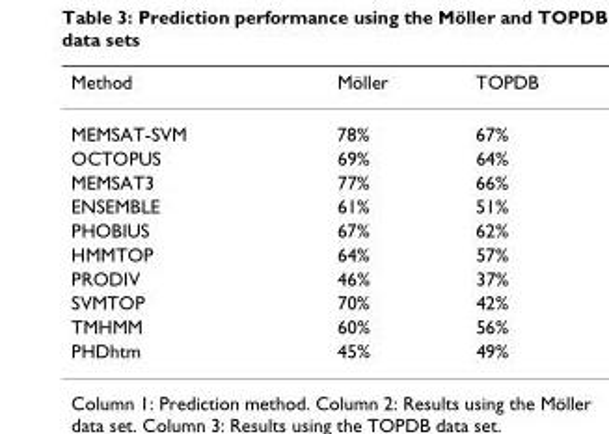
<table><thead><tr><td>Method</td><td>Möller</td><td>TOPDB</td></tr></thead><tbody><tr><td>MEMSAT-SVM</td><td>78%</td><td>67%</td></tr><tr><td>OCTOPUS</td><td>69%</td><td>64%</td></tr><tr><td>MEMSAT3</td><td>77%</td><td>66%</td></tr><tr><td>ENSEMBLE</td><td>61%</td><td>51%</td></tr><tr><td>PHOBIUS</td><td>67%</td><td>62%</td></tr><tr><td>HMMTOP</td><td>64%</td><td>57%</td></tr><tr><td>PRODIV</td><td>46%</td><td>37%</td></tr><tr><td>SVMTOP</td><td>70%</td><td>42%</td></tr><tr><td>TMHMM</td><td>60%</td><td>56%</td></tr><tr><td>PHDhtm</td><td>45%</td><td>49%</td></tr></tbody></table>